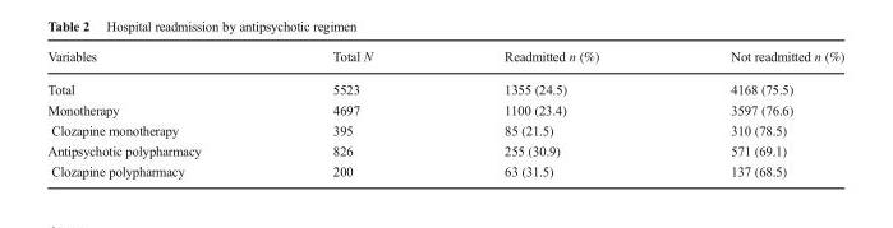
<table><thead><tr><td>Variables</td><td>Total N</td><td>Readmitted n (%)</td><td>Not readmitted n (%)</td></tr></thead><tbody><tr><td>Total</td><td>5523</td><td>1355 (24.5)</td><td>4168 (75.5)</td></tr><tr><td>Monotherapy</td><td>4697</td><td>1100 (23.4)</td><td>3597 (76.6)</td></tr><tr><td>Clozapine monotherapy</td><td>395</td><td>85 (21.5)</td><td>310 (78.5)</td></tr><tr><td>Antipsychotic polypharmacy</td><td>826</td><td>255 (30.9)</td><td>571 (69.1)</td></tr><tr><td>Clozapine polypharmacy</td><td>200</td><td>63 (31.5)</td><td>137 (68.5)</td></tr></tbody></table>